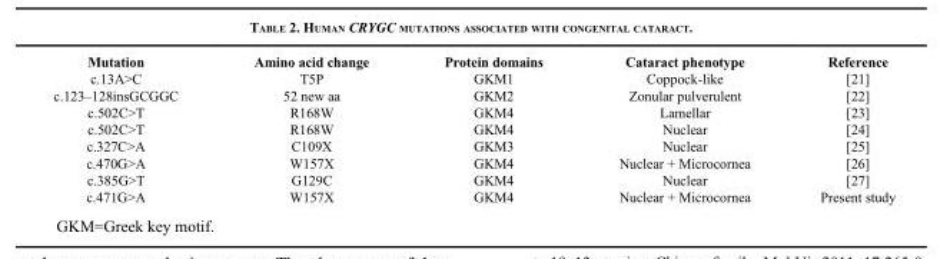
<table><thead><tr><td>Mutation</td><td>Amino acid change</td><td>Protein domains</td><td>Cataract phenotype</td><td>Reference</td></tr></thead><tbody><tr><td>c.13A&gt;C</td><td>T5P</td><td>GKM1</td><td>Coppock-like</td><td>[21]</td></tr><tr><td>c.123–128insGCGGC</td><td>52 new aa</td><td>GKM2</td><td>Zonular pulverulent</td><td>[22]</td></tr><tr><td>c.502C&gt;T</td><td>R168W</td><td>GKM4</td><td>Lamellar</td><td>[23]</td></tr><tr><td>c.502C&gt;T</td><td>R168W</td><td>GKM4</td><td>Nuclear</td><td>[24]</td></tr><tr><td>c.327C&gt;A</td><td>C109X</td><td>GKM3</td><td>Nuclear</td><td>[25]</td></tr><tr><td>c.470G&gt;A</td><td>W157X</td><td>GKM4</td><td>Nuclear + Microcornea</td><td>[26]</td></tr><tr><td>c.385G&gt;T</td><td>G129C</td><td>GKM4</td><td>Nuclear</td><td>[27]</td></tr><tr><td>c.471G&gt;A</td><td>W157X</td><td>GKM4</td><td>Nuclear + Microcornea</td><td>Present study</td></tr></tbody></table>